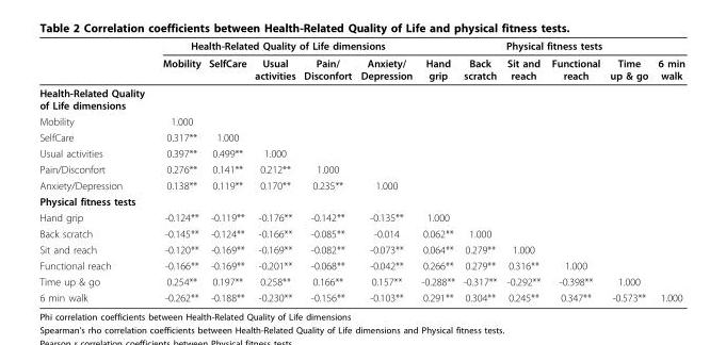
<table><thead><tr><td rowspan="2"></td><td colspan="5">Health-Related Quality of Life dimensions</td><td colspan="6">Physical fitness tests</td></tr><tr><td>Mobility</td><td>SelfCare</td><td>Usual activities</td><td>Pain/ Disconfort</td><td>Anxiety/ Depression</td><td>Hand grip</td><td>Back scratch</td><td>Sit and reach</td><td>Functional reach</td><td>Time up &amp; go</td><td>6 min walk</td></tr></thead><tbody><tr><td colspan="12">Health-Related Quality of Life dimensions</td></tr><tr><td>Mobility</td><td>1.000</td><td></td><td></td><td></td><td></td><td></td><td></td><td></td><td></td><td></td><td></td></tr><tr><td>SelfCare</td><td>0.317**</td><td>1.000</td><td></td><td></td><td></td><td></td><td></td><td></td><td></td><td></td><td></td></tr><tr><td>Usual activities</td><td>0.397**</td><td>0.499**</td><td>1.000</td><td></td><td></td><td></td><td></td><td></td><td></td><td></td><td></td></tr><tr><td>Pain/Disconfort</td><td>0.276**</td><td>0.141**</td><td>0.212**</td><td>1.000</td><td></td><td></td><td></td><td></td><td></td><td></td><td></td></tr><tr><td>Anxiety/Depression</td><td>0.138**</td><td>0.119**</td><td>0.170**</td><td>0.235**</td><td>1.000</td><td></td><td></td><td></td><td></td><td></td><td></td></tr><tr><td colspan="12">Physical fitness tests</td></tr><tr><td>Hand grip</td><td>-0.124**</td><td>-0.119**</td><td>-0.176**</td><td>-0.142**</td><td>-0.135**</td><td>1.000</td><td></td><td></td><td></td><td></td><td></td></tr><tr><td>Back scratch</td><td>-0.145**</td><td>-0.124**</td><td>-0.166**</td><td>-0.085**</td><td>-0.014</td><td>0.062**</td><td>1.000</td><td></td><td></td><td></td><td></td></tr><tr><td>Sit and reach</td><td>-0.120**</td><td>-0.169**</td><td>-0.169**</td><td>-0.082**</td><td>-0.073**</td><td>0.064**</td><td>0.279**</td><td>1.000</td><td></td><td></td><td></td></tr><tr><td>Functional reach</td><td>-0.166**</td><td>-0.169**</td><td>-0.201**</td><td>-0.068**</td><td>-0.042**</td><td>0.266**</td><td>0.279**</td><td>0.316**</td><td>1.000</td><td></td><td></td></tr><tr><td>Time up &amp; go</td><td>0.254**</td><td>0.197**</td><td>0.258**</td><td>0.166**</td><td>0.157**</td><td>-0.288**</td><td>-0.317**</td><td>-0.292**</td><td>-0.398**</td><td>1.000</td><td></td></tr><tr><td>6 min walk</td><td>-0.262**</td><td>-0.188**</td><td>-0.230**</td><td>-0.156**</td><td>-0.103**</td><td>0.291**</td><td>0.304**</td><td>0.245**</td><td>0.347**</td><td>-0.573**</td><td>1.000</td></tr></tbody></table>